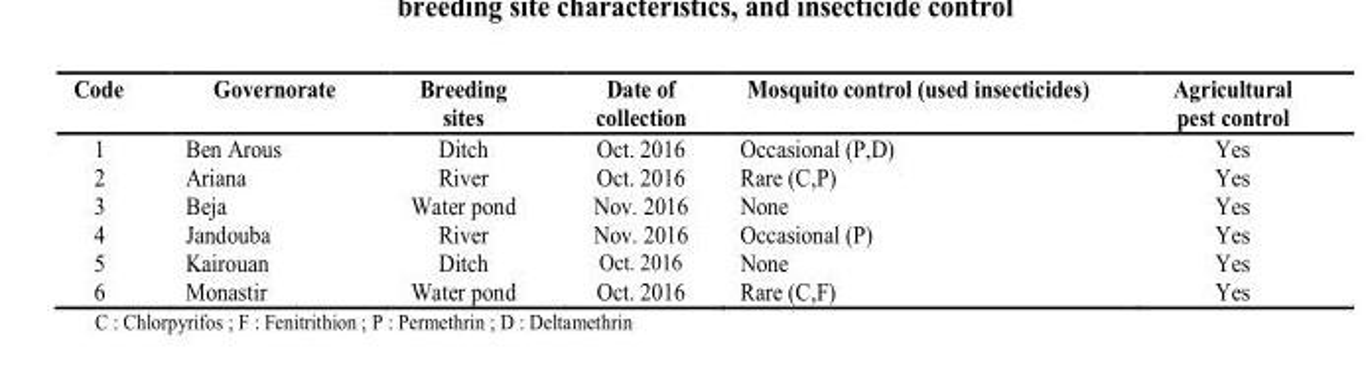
<table><thead><tr><td>Code</td><td>Governorate</td><td>Breeding sites</td><td>Date of collection</td><td>Mosquito control (used insecticides)</td><td>Agricultural pest control</td></tr></thead><tbody><tr><td>1</td><td>Ben Arous</td><td>Ditch</td><td>Oct. 2016</td><td>Occasional (P,D)</td><td>Yes</td></tr><tr><td>2</td><td>Ariana</td><td>River</td><td>Oct. 2016</td><td>Rare (C,P)</td><td>Yes</td></tr><tr><td>3</td><td>Beja</td><td>Water pond</td><td>Nov. 2016</td><td>None</td><td>Yes</td></tr><tr><td>4</td><td>Jandouba</td><td>River</td><td>Nov. 2016</td><td>Occasional (P)</td><td>Yes</td></tr><tr><td>5</td><td>Kairouan</td><td>Ditch</td><td>Oct. 2016</td><td>None</td><td>Yes</td></tr><tr><td>6</td><td>Monastir</td><td>Water pond</td><td>Oct. 2016</td><td>Rare (C,F)</td><td>Yes</td></tr></tbody></table>